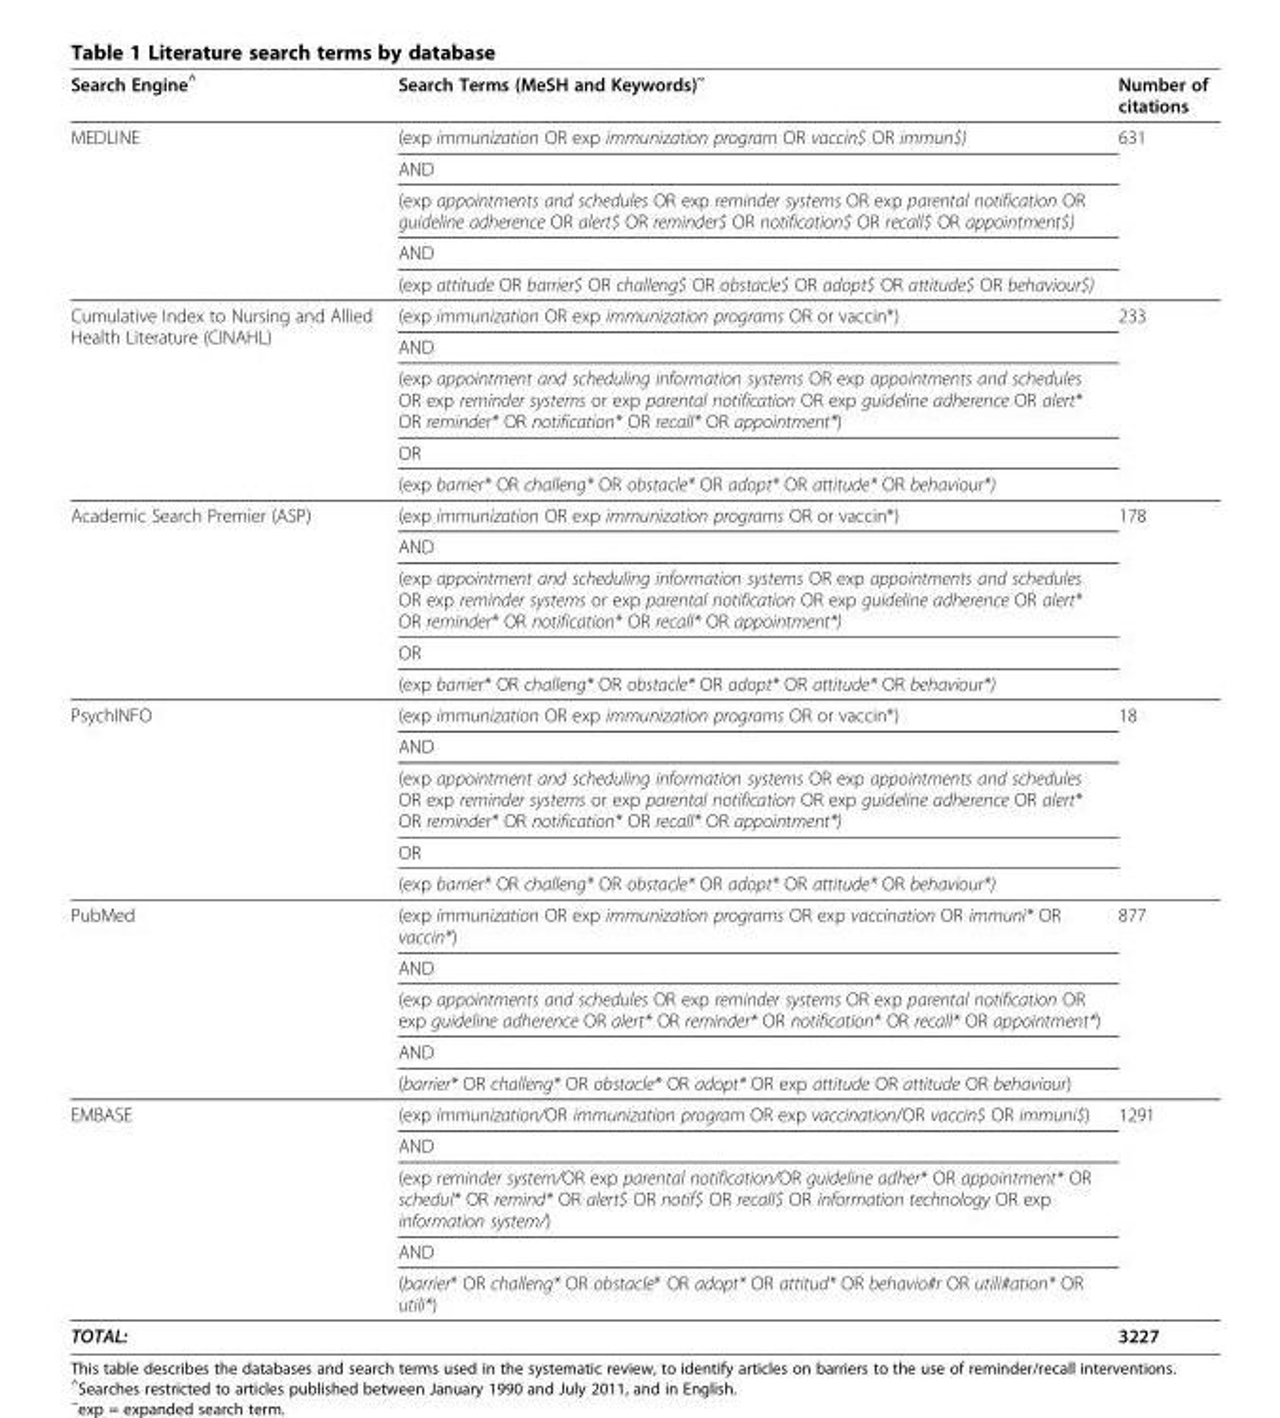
<table><thead><tr><td>Search Engine<sup>^</sup></td><td>Search Terms (MeSH and Keywords)<sup>~</sup></td><td>Number of citations</td></tr></thead><tbody><tr><td rowspan="5">MEDLINE</td><td>(exp immunization OR exp immunization program OR vaccin$ OR immun$)</td><td rowspan="5">631</td></tr><tr><td>AND</td></tr><tr><td>(exp appointments and schedules OR exp reminder systems OR exp parental notification OR guideline adherence OR alert$ OR reminder$ OR notification$ OR recall$ OR appointment$)</td></tr><tr><td>AND</td></tr><tr><td>(exp attitude OR barrier$ OR challeng$ OR obstacle$ OR adopt$ OR attitude$ OR behaviour$)</td></tr><tr><td rowspan="5">Cumulative Index to Nursing and Allied Health Literature (CINAHL)</td><td>(exp immunization OR exp immunization programs OR or vaccin*)</td><td rowspan="5">233</td></tr><tr><td>AND</td></tr><tr><td>(exp appointment and scheduling information systems OR exp appointments and schedules OR exp reminder systems or exp parental notification OR exp guideline adherence OR alert* OR reminder* OR notification* OR recall* OR appointment*)</td></tr><tr><td>OR</td></tr><tr><td>(exp barrier* OR challeng* OR obstacle* OR adopt* OR attitude* OR behaviour*)</td></tr><tr><td rowspan="5">Academic Search Premier (ASP)</td><td>(exp immunization OR exp immunization programs OR or vaccin*)</td><td rowspan="5">178</td></tr><tr><td>AND</td></tr><tr><td>(exp appointment and scheduling information systems OR exp appointments and schedules OR exp reminder systems or exp parental notification OR exp guideline adherence OR alert* OR reminder* OR notification* OR recall* OR appointment*)</td></tr><tr><td>OR</td></tr><tr><td>(exp barrier* OR challeng* OR obstacle* OR adopt* OR attitude* OR behaviour*)</td></tr><tr><td rowspan="5">PsychINFO</td><td>(exp immunization OR exp immunization programs OR or vaccin*)</td><td rowspan="5">18</td></tr><tr><td>AND</td></tr><tr><td>(exp appointment and scheduling information systems OR exp appointments and schedules OR exp reminder systems or exp parental notification OR exp guideline adherence OR alert* OR reminder* OR notification* OR recall* OR appointment*)</td></tr><tr><td>OR</td></tr><tr><td>(exp barrier* OR challeng* OR obstacle* OR adopt* OR attitude* OR behaviour*)</td></tr><tr><td rowspan="5">PubMed</td><td>(exp immunization OR exp immunization programs OR exp vaccination OR immuni* OR vaccin*)</td><td rowspan="5">877</td></tr><tr><td>AND</td></tr><tr><td>(exp appointments and schedules OR exp reminder systems OR exp parental notification OR exp guideline adherence OR alert* OR reminder* OR notification* OR recall* OR appointment*)</td></tr><tr><td>AND</td></tr><tr><td>(barrier* OR challeng* OR obstacle* OR adopt* OR exp attitude OR attitude OR behaviour)</td></tr><tr><td rowspan="5">EMBASE</td><td>(exp immunization/OR immunization program OR exp vaccination/OR vaccin$ OR immuni$)</td><td rowspan="5">1291</td></tr><tr><td>AND</td></tr><tr><td>(exp reminder system/OR exp parental notification/OR guideline adher* OR appointment* OR schedul* OR remind* OR alert$ OR notif$ OR recall$ OR information technology OR exp information system/)</td></tr><tr><td>AND</td></tr><tr><td>(barrier* OR challeng* OR obstacle* OR adopt* OR attitud* OR behavio#r OR utili#ation* OR utili*)</td></tr><tr><td colspan="2">TOTAL:</td><td>3227</td></tr></tbody></table>